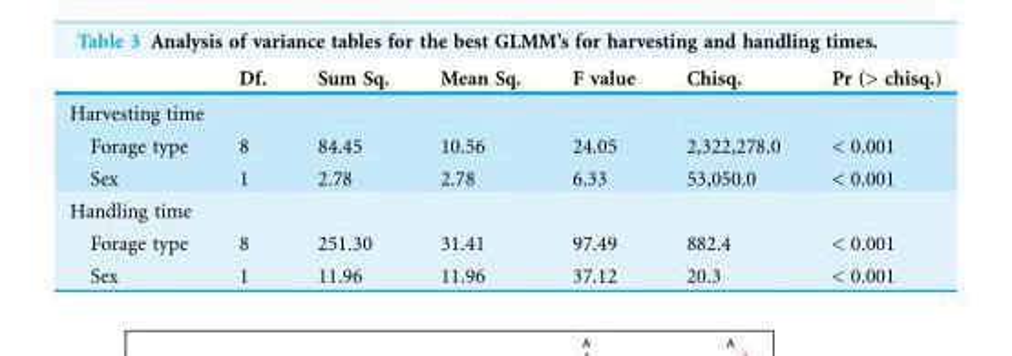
<table><thead><tr><td></td><td>Df.</td><td>Sum Sq.</td><td>Mean Sq.</td><td>F value</td><td>Chisq.</td><td>Pr (&gt; chisq.)</td></tr></thead><tbody><tr><td colspan="7">Harvesting time</td></tr><tr><td>Forage type</td><td>8</td><td>84.45</td><td>10.56</td><td>24.05</td><td>2,322,278.0</td><td>&lt; 0.001</td></tr><tr><td>Sex</td><td>1</td><td>2.78</td><td>2.78</td><td>6.33</td><td>53,050.0</td><td>&lt; 0.001</td></tr><tr><td colspan="7">Handling time</td></tr><tr><td>Forage type</td><td>8</td><td>251.30</td><td>31.41</td><td>97.49</td><td>882.4</td><td>&lt; 0.001</td></tr><tr><td>Sex</td><td>1</td><td>11.96</td><td>11.96</td><td>37.12</td><td>20.3</td><td>&lt; 0.001</td></tr></tbody></table>